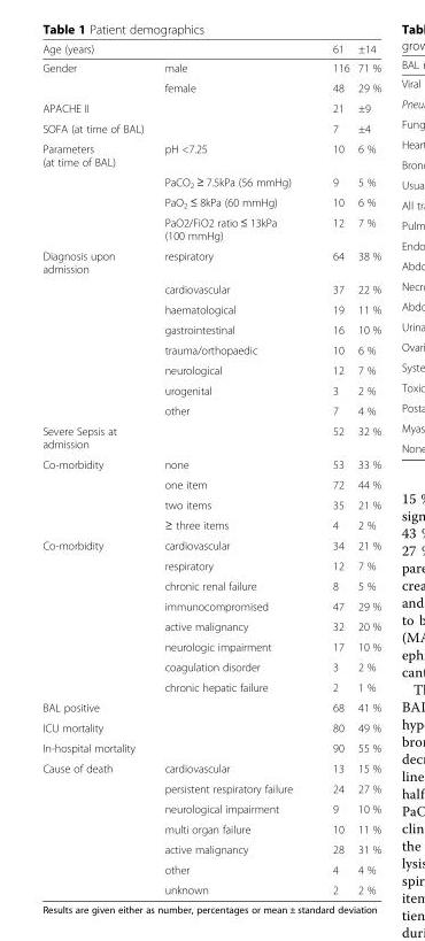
<table><thead><tr><td>Age (years)</td><td></td><td>61</td><td>±14</td></tr></thead><tbody><tr><td rowspan="2">Gender</td><td>male</td><td>116</td><td>71 %</td></tr><tr><td>female</td><td>48</td><td>29 %</td></tr><tr><td>APACHE II</td><td></td><td>21</td><td>±9</td></tr><tr><td>SOFA (at time of BAL)</td><td></td><td>7</td><td>±4</td></tr><tr><td rowspan="4">Parameters (at time of BAL)</td><td>pH &lt;7.25</td><td>10</td><td>6 %</td></tr><tr><td>PaCO<sub>2</sub> ≥ 7.5kPa (56 mmHg)</td><td>9</td><td>5 %</td></tr><tr><td>PaO<sub>2</sub> ≤ 8kPa (60 mmHg)</td><td>10</td><td>6 %</td></tr><tr><td>PaO2/FiO2 ratio ≤ 13kPa (100 mmHg)</td><td>12</td><td>7 %</td></tr><tr><td rowspan="8">Diagnosis upon admission</td><td>respiratory</td><td>64</td><td>38 %</td></tr><tr><td>cardiovascular</td><td>37</td><td>22 %</td></tr><tr><td>haematological</td><td>19</td><td>11 %</td></tr><tr><td>gastrointestinal</td><td>16</td><td>10 %</td></tr><tr><td>trauma/orthopaedic</td><td>10</td><td>6 %</td></tr><tr><td>neurological</td><td>12</td><td>7 %</td></tr><tr><td>urogenital</td><td>3</td><td>2 %</td></tr><tr><td>other</td><td>7</td><td>4 %</td></tr><tr><td>Severe Sepsis at admission</td><td></td><td>52</td><td>32 %</td></tr><tr><td rowspan="4">Co-morbidity</td><td>none</td><td>53</td><td>33 %</td></tr><tr><td>one item</td><td>72</td><td>44 %</td></tr><tr><td>two items</td><td>35</td><td>21 %</td></tr><tr><td>≥ three items</td><td>4</td><td>2 %</td></tr><tr><td rowspan="8">Co-morbidity</td><td>cardiovascular</td><td>34</td><td>21 %</td></tr><tr><td>respiratory</td><td>12</td><td>7 %</td></tr><tr><td>chronic renal failure</td><td>8</td><td>5 %</td></tr><tr><td>immunocompromised</td><td>47</td><td>29 %</td></tr><tr><td>active malignancy</td><td>32</td><td>20 %</td></tr><tr><td>neurologic impairment</td><td>17</td><td>10 %</td></tr><tr><td>coagulation disorder</td><td>3</td><td>2 %</td></tr><tr><td>chronic hepatic failure</td><td>2</td><td>1 %</td></tr><tr><td>BAL positive</td><td></td><td>68</td><td>41 %</td></tr><tr><td>ICU mortality</td><td></td><td>80</td><td>49 %</td></tr><tr><td>In-hospital mortality</td><td></td><td>90</td><td>55 %</td></tr><tr><td rowspan="7">Cause of death</td><td>cardiovascular</td><td>13</td><td>15 %</td></tr><tr><td>persistent respiratory failure</td><td>24</td><td>27 %</td></tr><tr><td>neurological impairment</td><td>9</td><td>10 %</td></tr><tr><td>multi organ failure</td><td>10</td><td>11 %</td></tr><tr><td>active malignancy</td><td>28</td><td>31 %</td></tr><tr><td>other</td><td>4</td><td>4 %</td></tr><tr><td>unknown</td><td>2</td><td>2 %</td></tr></tbody></table>